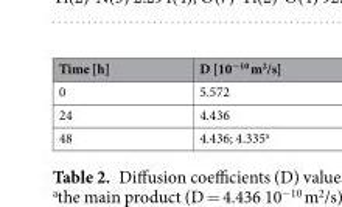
<table><thead><tr><td>Time [h]</td><td>D [10<sup>−10</sup> m<sup>2</sup>/s]</td></tr></thead><tbody><tr><td>0</td><td>5.572</td></tr><tr><td>24</td><td>4.436</td></tr><tr><td>48</td><td>4.436; 4.335<sup>a</sup></td></tr></tbody></table>